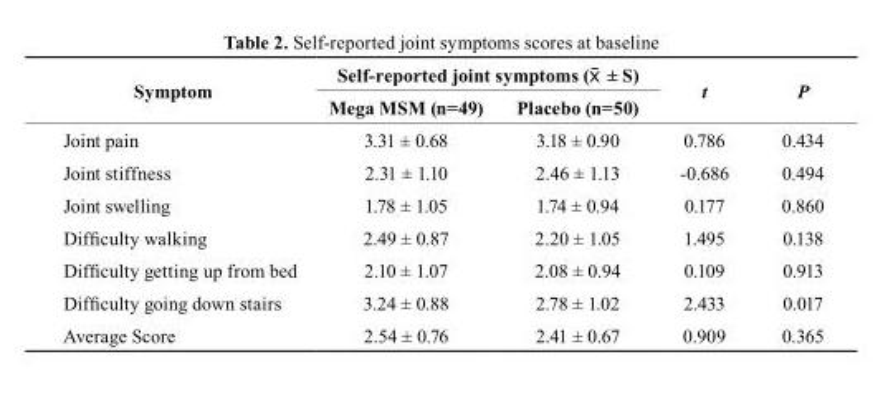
<table><thead><tr><td rowspan="2">symptom</td><td colspan="2">self-reported joint symptoms (X ± S)</td><td rowspan="2">t</td><td rowspan="2">P</td></tr><tr><td>Mega MSM (n=49)</td><td>Placebo (n=50)</td></tr></thead><tbody><tr><td>Joint pain</td><td>3.31 ± 0.68</td><td>3.18 ± 0.90</td><td>0.786</td><td>0.434</td></tr><tr><td>Joint stiffness</td><td>2.31 ± 1.10</td><td>2.46 ± 1.13</td><td>-0.686</td><td>0.494</td></tr><tr><td>Joint swelling</td><td>1.78 ± 1.05</td><td>1.74 ± 0.94</td><td>0.177</td><td>0.860</td></tr><tr><td>Difficulty walking</td><td>2.49 ± 0.87</td><td>2.20 ± 1.05</td><td>1.495</td><td>0.138</td></tr><tr><td>Difficulty getting up from bed</td><td>2.10 ± 1.07</td><td>2.08 ± 0.94</td><td>0.109</td><td>0.913</td></tr><tr><td>Difficulty going down stairs</td><td>3.24 ± 0.88</td><td>2.78 ± 1.02</td><td>2.433</td><td>0.017</td></tr><tr><td>Average Score</td><td>2.54 ± 0.76</td><td>2.41 ± 0.67</td><td>0.909</td><td>0.365</td></tr></tbody></table>